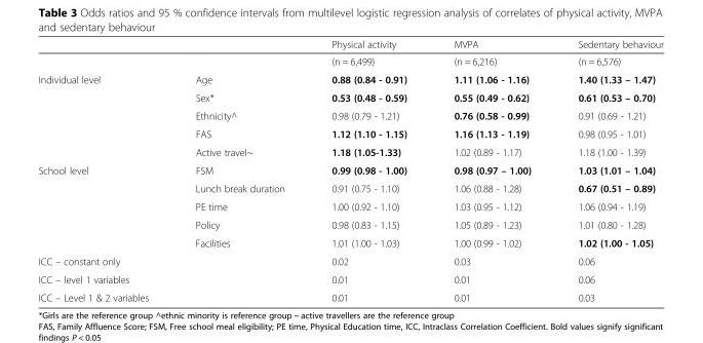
<table><thead><tr><td></td><td></td><td>Physical activity</td><td>MVPA</td><td>Sedentary behaviour</td></tr></thead><tbody><tr><td></td><td></td><td>(n = 6,499)</td><td>(n = 6,216)</td><td>(n = 6,576)</td></tr><tr><td rowspan="5">Individual level</td><td>Age</td><td>0.88 (0.84 - 0.91)</td><td>1.11 (1.06 - 1.16)</td><td>1.40 (1.33 – 1.47)</td></tr><tr><td>Sex*</td><td>0.53 (0.48 - 0.59)</td><td>0.55 (0.49 - 0.62)</td><td>0.61 (0.53 – 0.70)</td></tr><tr><td>Ethnicity^</td><td>0.98 (0.79 - 1.21)</td><td>0.76 (0.58 - 0.99)</td><td>0.91 (0.69 - 1.21)</td></tr><tr><td>FAS</td><td>1.12 (1.10 - 1.15)</td><td>1.16 (1.13 - 1.19)</td><td>0.98 (0.95 - 1.01)</td></tr><tr><td>Active travel~</td><td>1.18 (1.05-1.33)</td><td>1.02 (0.89 - 1.17)</td><td>1.18 (1.00 - 1.39)</td></tr><tr><td rowspan="5">School level</td><td>FSM</td><td>0.99 (0.98 - 1.00)</td><td>0.98 (0.97 – 1.00)</td><td>1.03 (1.01 – 1.04)</td></tr><tr><td>Lunch break duration</td><td>0.91 (0.75 - 1.10)</td><td>1.06 (0.88 - 1.28)</td><td>0.67 (0.51 – 0.89)</td></tr><tr><td>PE time</td><td>1.00 (0.92 - 1.10)</td><td>1.03 (0.95 - 1.12)</td><td>1.06 (0.94 - 1.19)</td></tr><tr><td>Policy</td><td>0.98 (0.83 - 1.15)</td><td>1.05 (0.89 - 1.23)</td><td>1.01 (0.80 - 1.28)</td></tr><tr><td>Facilities</td><td>1.01 (1.00 - 1.03)</td><td>1.00 (0.99 - 1.02)</td><td>1.02 (1.00 - 1.05)</td></tr><tr><td>ICC – constant only</td><td></td><td>0.02</td><td>0.03</td><td>0.06</td></tr><tr><td>ICC – level 1 variables</td><td></td><td>0.01</td><td>0.01</td><td>0.06</td></tr><tr><td>ICC – Level 1 &amp; 2 variables</td><td></td><td>0.01</td><td>0.01</td><td>0.03</td></tr></tbody></table>